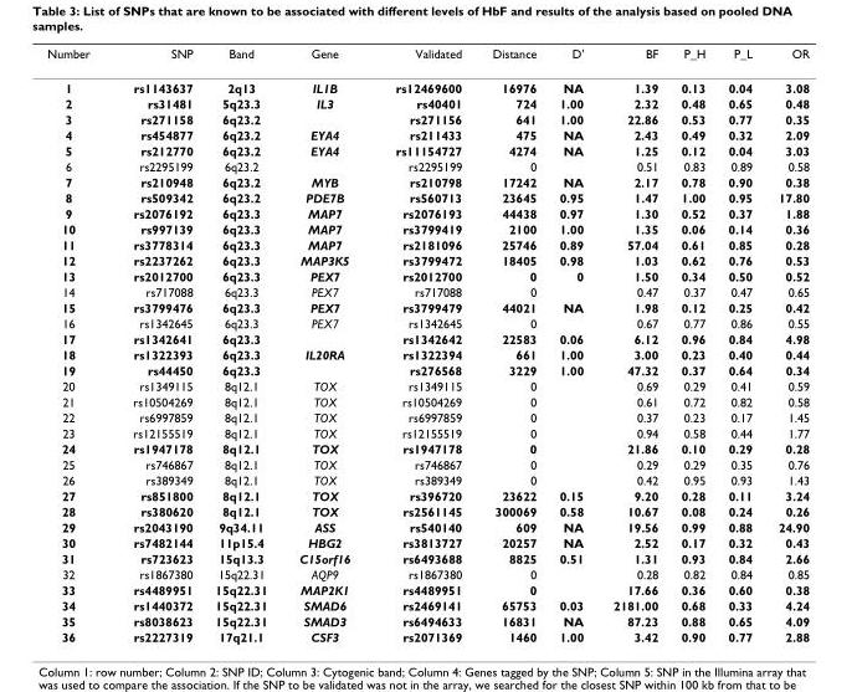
<table><thead><tr><td>Number</td><td>SNP</td><td>Band</td><td>Gene</td><td>Validated</td><td>Distance</td><td>D&#x27;</td><td>BF</td><td>P_H</td><td>P_L</td><td>OR</td></tr></thead><tbody><tr><td>1</td><td>rs1143637</td><td>2q13</td><td>IL1B</td><td>rs12469600</td><td>16976</td><td>NA</td><td>1.39</td><td>0.13</td><td>0.04</td><td>3.08</td></tr><tr><td>2</td><td>rs31481</td><td>5q23.3</td><td>IL3</td><td>rs40401</td><td>724</td><td>1.00</td><td>2.32</td><td>0.48</td><td>0.65</td><td>0.48</td></tr><tr><td>3</td><td>rs271158</td><td>6q23.2</td><td></td><td>rs271156</td><td>641</td><td>1.00</td><td>22.86</td><td>0.53</td><td>0.77</td><td>0.35</td></tr><tr><td>4</td><td>rs454877</td><td>6q23.2</td><td>EYA4</td><td>rs211433</td><td>475</td><td>NA</td><td>2.43</td><td>0.49</td><td>0.32</td><td>2.09</td></tr><tr><td>5</td><td>rs212770</td><td>6q23.2</td><td>EYA4</td><td>rs11154727</td><td>4274</td><td>NA</td><td>1.25</td><td>0.12</td><td>0.04</td><td>3.03</td></tr><tr><td>6</td><td>rs2295199</td><td>6q23.2</td><td></td><td>rs2295199</td><td>0</td><td></td><td>0.51</td><td>0.83</td><td>0.89</td><td>0.58</td></tr><tr><td>7</td><td>rs210948</td><td>6q23.2</td><td>MYB</td><td>rs210798</td><td>17242</td><td>NA</td><td>2.17</td><td>0.78</td><td>0.90</td><td>0.38</td></tr><tr><td>8</td><td>rs509342</td><td>6q23.2</td><td>PDE7B</td><td>rs560713</td><td>23645</td><td>0.95</td><td>1.47</td><td>1.00</td><td>0.95</td><td>17.80</td></tr><tr><td>9</td><td>rs2076192</td><td>6q23.3</td><td>MAP7</td><td>rs2076193</td><td>44438</td><td>0.97</td><td>1.30</td><td>0.52</td><td>0.37</td><td>1.88</td></tr><tr><td>10</td><td>rs997139</td><td>6q23.3</td><td>MAP7</td><td>rs3799419</td><td>2100</td><td>1.00</td><td>1.35</td><td>0.06</td><td>0.14</td><td>0.36</td></tr><tr><td>11</td><td>rs3778314</td><td>6q23.3</td><td>MAP7</td><td>rs2181096</td><td>25746</td><td>0.89</td><td>57.04</td><td>0.61</td><td>0.85</td><td>0.28</td></tr><tr><td>12</td><td>rs2237262</td><td>6q23.3</td><td>MAP3K5</td><td>rs3799472</td><td>18405</td><td>0.98</td><td>1.03</td><td>0.62</td><td>0.76</td><td>0.53</td></tr><tr><td>13</td><td>rs2012700</td><td>6q23.3</td><td>PEX7</td><td>rs2012700</td><td>0</td><td>0</td><td>1.50</td><td>0.34</td><td>0.50</td><td>0.52</td></tr><tr><td>14</td><td>rs717088</td><td>6q23.3</td><td>PEX7</td><td>rs717088</td><td>0</td><td></td><td>0.47</td><td>0.37</td><td>0.47</td><td>0.65</td></tr><tr><td>15</td><td>rs3799476</td><td>6q23.3</td><td>PEX7</td><td>rs3799479</td><td>44021</td><td>NA</td><td>1.98</td><td>0.12</td><td>0.25</td><td>0.42</td></tr><tr><td>16</td><td>rs1342645</td><td>6q23.3</td><td>PEX7</td><td>rs1342645</td><td>0</td><td></td><td>0.67</td><td>0.77</td><td>0.86</td><td>0.55</td></tr><tr><td>17</td><td>rs1342641</td><td>6q23.3</td><td></td><td>rs1342642</td><td>22583</td><td>0.06</td><td>6.12</td><td>0.96</td><td>0.84</td><td>4.98</td></tr><tr><td>18</td><td>rs1322393</td><td>6q23.3</td><td>IL20RA</td><td>rs1322394</td><td>661</td><td>1.00</td><td>3.00</td><td>0.23</td><td>0.40</td><td>0.44</td></tr><tr><td>19</td><td>rs44450</td><td>6q23.3</td><td></td><td>rs276568</td><td>3229</td><td>1.00</td><td>47.32</td><td>0.37</td><td>0.64</td><td>0.34</td></tr><tr><td>20</td><td>rs1349115</td><td>8q12.1</td><td>TOX</td><td>rs1349115</td><td>0</td><td></td><td>0.69</td><td>0.29</td><td>0.41</td><td>0.59</td></tr><tr><td>21</td><td>rs10504269</td><td>8q12.1</td><td>TOX</td><td>rs10504269</td><td>0</td><td></td><td>0.61</td><td>0.72</td><td>0.82</td><td>0.58</td></tr><tr><td>22</td><td>rs6997859</td><td>8q12.1</td><td>TOX</td><td>rs6997859</td><td>0</td><td></td><td>0.37</td><td>0.23</td><td>0.17</td><td>1.45</td></tr><tr><td>23</td><td>rs12155519</td><td>8q12.1</td><td>TOX</td><td>rs12155519</td><td>0</td><td></td><td>0.94</td><td>0.58</td><td>0.44</td><td>1.77</td></tr><tr><td>24</td><td>rs1947178</td><td>8q12.1</td><td>TOX</td><td>rs1947178</td><td>0</td><td></td><td>21.86</td><td>0.10</td><td>0.29</td><td>0.28</td></tr><tr><td>25</td><td>rs746867</td><td>8q12.1</td><td>TOX</td><td>rs746867</td><td>0</td><td></td><td>0.29</td><td>0.29</td><td>0.35</td><td>0.76</td></tr><tr><td>26</td><td>rs389349</td><td>8q12.1</td><td>TOX</td><td>rs389349</td><td>0</td><td></td><td>0.42</td><td>0.95</td><td>0.93</td><td>1.43</td></tr><tr><td>27</td><td>rs851800</td><td>8q12.1</td><td>TOX</td><td>rs396720</td><td>23622</td><td>0.15</td><td>9.20</td><td>0.28</td><td>0.11</td><td>3.24</td></tr><tr><td>28</td><td>rs380620</td><td>8q12.1</td><td>TOX</td><td>rs2561145</td><td>300069</td><td>0.58</td><td>10.67</td><td>0.08</td><td>0.24</td><td>0.26</td></tr><tr><td>29</td><td>rs2043190</td><td>9q34.11</td><td>ASS</td><td>rs540140</td><td>609</td><td>NA</td><td>19.56</td><td>0.99</td><td>0.88</td><td>24.90</td></tr><tr><td>30</td><td>rs7482144</td><td>11p15.4</td><td>HBG2</td><td>rs3813727</td><td>20257</td><td>NA</td><td>2.52</td><td>0.17</td><td>0.32</td><td>0.43</td></tr><tr><td>31</td><td>rs723623</td><td>15q13.3</td><td>C15orf16</td><td>rs6493688</td><td>8825</td><td>0.51</td><td>1.31</td><td>0.93</td><td>0.84</td><td>2.66</td></tr><tr><td>32</td><td>rs1867380</td><td>15q22.31</td><td>AQP9</td><td>rs1867380</td><td>0</td><td></td><td>0.28</td><td>0.82</td><td>0.84</td><td>0.85</td></tr><tr><td>33</td><td>rs4489951</td><td>15q22.31</td><td>MAP2K1</td><td>rs4489951</td><td>0</td><td></td><td>17.66</td><td>0.36</td><td>0.60</td><td>0.38</td></tr><tr><td>34</td><td>rs1440372</td><td>15q22.31</td><td>SMAD6</td><td>rs2469141</td><td>65753</td><td>0.03</td><td>2181.00</td><td>0.68</td><td>0.33</td><td>4.24</td></tr><tr><td>35</td><td>rs8038623</td><td>15q22.31</td><td>SMAD3</td><td>rs6494633</td><td>16831</td><td>NA</td><td>87.23</td><td>0.88</td><td>0.65</td><td>4.09</td></tr><tr><td>36</td><td>rs2227319</td><td>17q21.1</td><td>CSF3</td><td>rs2071369</td><td>1460</td><td>1.00</td><td>3.42</td><td>0.90</td><td>0.77</td><td>2.88</td></tr></tbody></table>